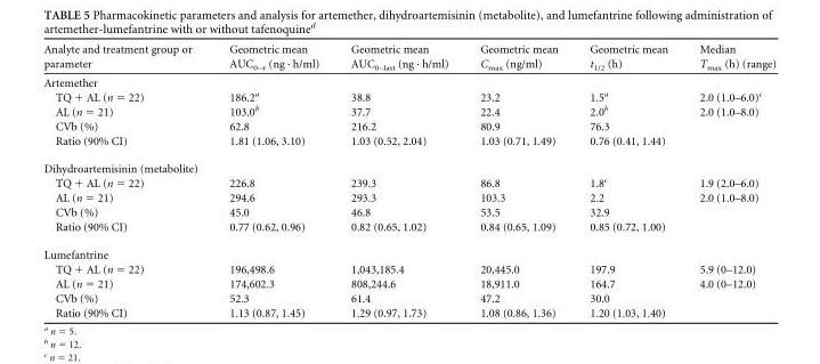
<table><thead><tr><td>Analyte and treatment group or parameter</td><td>Geometric mean AUC<sub>0–τ</sub> (ng · h/ml)</td><td>Geometric mean AUC<sub>0–last</sub> (ng · h/ml)</td><td>Geometric mean C<sub>max</sub> (ng/ml)</td><td>Geometric mean t<sub>1/2</sub> (h)</td><td>Median T<sub>max</sub> (h) (range)</td></tr></thead><tbody><tr><td colspan="6">Artemether</td></tr><tr><td>TQ + AL (n = 22)</td><td>186.2<sup>a</sup></td><td>38.8</td><td>23.2</td><td>1.5<sup>a</sup></td><td>2.0 (1.0–6.0)<sup>c</sup></td></tr><tr><td>AL (n = 21)</td><td>103.0<sup>b</sup></td><td>37.7</td><td>22.4</td><td>2.0<sup>b</sup></td><td>2.0 (1.0–8.0)</td></tr><tr><td>CVb (%)</td><td>62.8</td><td>216.2</td><td>80.9</td><td>76.3</td><td></td></tr><tr><td>Ratio (90% CI)</td><td>1.81 (1.06, 3.10)</td><td>1.03 (0.52, 2.04)</td><td>1.03 (0.71, 1.49)</td><td>0.76 (0.41, 1.44)</td><td></td></tr><tr><td colspan="6">Dihydroartemisinin (metabolite)</td></tr><tr><td>TQ + AL (n = 22)</td><td>226.8</td><td>239.3</td><td>86.8</td><td>1.8<sup>c</sup></td><td>1.9 (2.0–6.0)</td></tr><tr><td>AL (n = 21)</td><td>294.6</td><td>293.3</td><td>103.3</td><td>2.2</td><td>2.0 (1.0–8.0)</td></tr><tr><td>CVb (%)</td><td>45.0</td><td>46.8</td><td>53.5</td><td>32.9</td><td></td></tr><tr><td>Ratio (90% CI)</td><td>0.77 (0.62, 0.96)</td><td>0.82 (0.65, 1.02)</td><td>0.84 (0.65, 1.09)</td><td>0.85 (0.72, 1.00)</td><td></td></tr><tr><td colspan="6">Lumefantrine</td></tr><tr><td>TQ + AL (n = 22)</td><td>196,498.6</td><td>1,043,185.4</td><td>20,445.0</td><td>197.9</td><td>5.9 (0–12.0)</td></tr><tr><td>AL (n = 21)</td><td>174,602.3</td><td>808,244.6</td><td>18,911.0</td><td>164.7</td><td>4.0 (0–12.0)</td></tr><tr><td>CVb (%)</td><td>52.3</td><td>61.4</td><td>47.2</td><td>30.0</td><td></td></tr><tr><td>Ratio (90% CI)</td><td>1.13 (0.87, 1.45)</td><td>1.29 (0.97, 1.73)</td><td>1.08 (0.86, 1.36)</td><td>1.20 (1.03, 1.40)</td><td></td></tr></tbody></table>